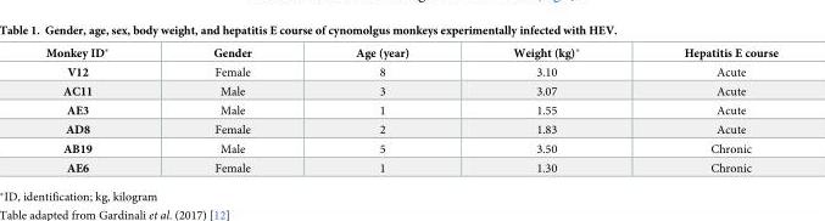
<table><thead><tr><td>Monkey ID*</td><td>Gender</td><td>Age (year)</td><td>Weight (kg)*</td><td>Hepatitis E course</td></tr></thead><tbody><tr><td>V12</td><td>Female</td><td>8</td><td>3.10</td><td>Acute</td></tr><tr><td>AC11</td><td>Male</td><td>3</td><td>3.07</td><td>Acute</td></tr><tr><td>AE3</td><td>Male</td><td>1</td><td>1.55</td><td>Acute</td></tr><tr><td>AD8</td><td>Female</td><td>2</td><td>1.83</td><td>Acute</td></tr><tr><td>AB19</td><td>Male</td><td>5</td><td>3.50</td><td>Chronic</td></tr><tr><td>AE6</td><td>Female</td><td>1</td><td>1.30</td><td>Chronic</td></tr></tbody></table>